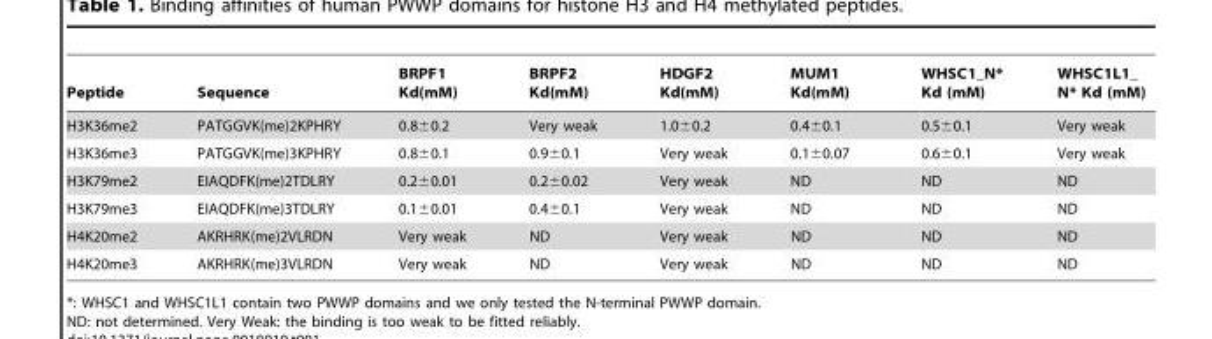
<table><thead><tr><td>Peptide</td><td>Sequence</td><td>BRPF1 Kd(mM)</td><td>BRPF2 Kd(mM)</td><td>HDGF2 Kd(mM)</td><td>MUM1 Kd(mM)</td><td>WHSC1_N* Kd (mM)</td><td>WHSC1L1_ N* Kd (mM)</td></tr></thead><tbody><tr><td>H3K36me2</td><td>PATGGVK(me)2KPHRY</td><td>0.8±0.2</td><td>Very weak</td><td>1.0±0.2</td><td>0.4±0.1</td><td>0.5±0.1</td><td>Very weak</td></tr><tr><td>H3K36me3</td><td>PATGGVK(me)3KPHRY</td><td>0.8±0.1</td><td>0.9±0.1</td><td>Very weak</td><td>0.1±0.07</td><td>0.6±0.1</td><td>Very weak</td></tr><tr><td>H3K79me2</td><td>EIAQDFK(me)2TDLRY</td><td>0.2±0.01</td><td>0.2±0.02</td><td>Very weak</td><td>ND</td><td>ND</td><td>ND</td></tr><tr><td>H3K79me3</td><td>EIAQDFK(me)3TDLRY</td><td>0.1±0.01</td><td>0.4±0.1</td><td>Very weak</td><td>ND</td><td>ND</td><td>ND</td></tr><tr><td>H4K20me2</td><td>AKRHRK(me)2VLRDN</td><td>Very weak</td><td>ND</td><td>Very weak</td><td>ND</td><td>ND</td><td>ND</td></tr><tr><td>H4K20me3</td><td>AKRHRK(me)3VLRDN</td><td>Very weak</td><td>ND</td><td>Very weak</td><td>ND</td><td>ND</td><td>ND</td></tr></tbody></table>